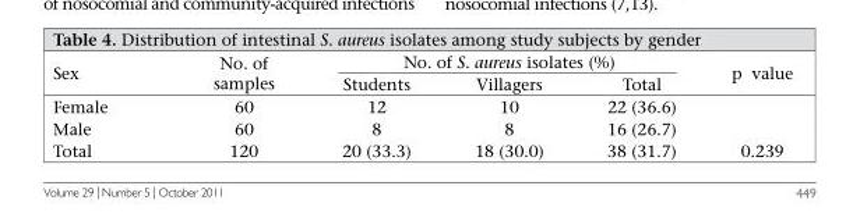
<table><thead><tr><td rowspan="2">Sex</td><td rowspan="2">No. of samples</td><td colspan="3">No. of S. aureus isolates (%)</td><td rowspan="2">p value</td></tr><tr><td>Students</td><td>Villagers</td><td>Total</td></tr></thead><tbody><tr><td>Female</td><td>60</td><td>12</td><td>10</td><td>22 (36.6)</td><td></td></tr><tr><td>Male</td><td>60</td><td>8</td><td>8</td><td>16 (26.7)</td><td></td></tr><tr><td>Total</td><td>120</td><td>20 (33.3)</td><td>18 (30.0)</td><td>38 (31.7)</td><td>0.239</td></tr></tbody></table>